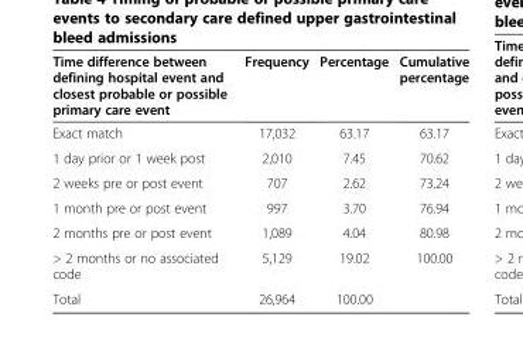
<table><thead><tr><td>Time difference between defining hospital event and closest probable or possible primary care event</td><td>Frequency</td><td>Percentage</td><td>Cumulative percentage</td></tr></thead><tbody><tr><td>Exact match</td><td>17,032</td><td>63.17</td><td>63.17</td></tr><tr><td>1 day prior or 1 week post</td><td>2,010</td><td>7.45</td><td>70.62</td></tr><tr><td>2 weeks pre or post event</td><td>707</td><td>2.62</td><td>73.24</td></tr><tr><td>1 month pre or post event</td><td>997</td><td>3.70</td><td>76.94</td></tr><tr><td>2 months pre or post event</td><td>1,089</td><td>4.04</td><td>80.98</td></tr><tr><td>&gt; 2 months or no associated code</td><td>5,129</td><td>19.02</td><td>100.00</td></tr><tr><td>Total</td><td>26,964</td><td>100.00</td><td></td></tr></tbody></table>